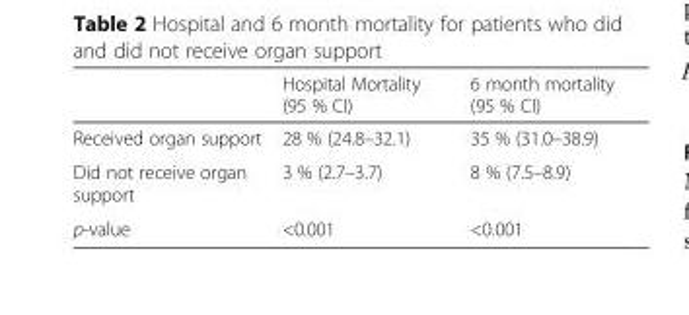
<table><thead><tr><td></td><td>Hospital Mortality (95 % CI)</td><td>6 month mortality (95 % CI)</td></tr></thead><tbody><tr><td>Received organ support</td><td>28 % (24.8–32.1)</td><td>35 % (31.0–38.9)</td></tr><tr><td>Did not receive organ support</td><td>3 % (2.7–3.7)</td><td>8 % (7.5–8.9)</td></tr><tr><td>p-value</td><td>&lt;0.001</td><td>&lt;0.001</td></tr></tbody></table>